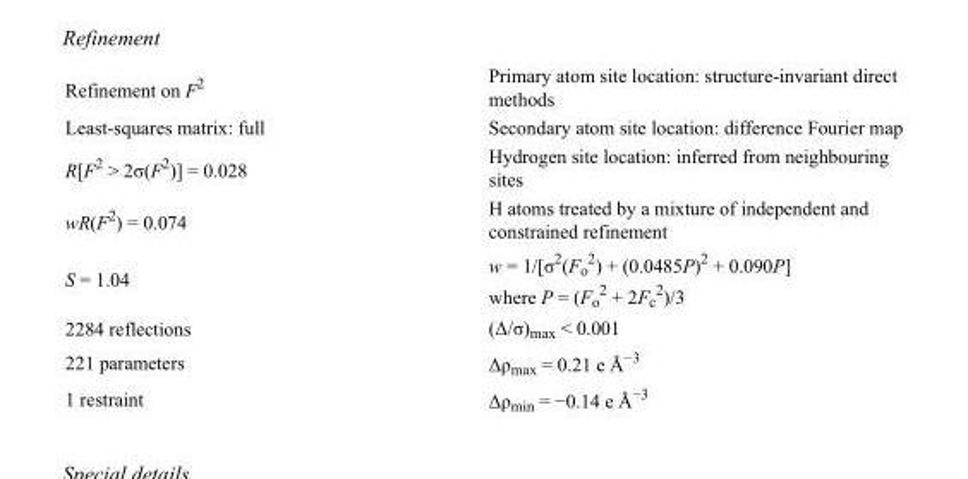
<table><tbody><tr><td>Refinement on F<sup>2</sup></td><td>Primary atom site location: structure-invariant direct methods</td></tr><tr><td>Least-squares matrix: full</td><td>Secondary atom site location: difference Fourier map</td></tr><tr><td>R[F<sup>2</sup> &gt; 2σ(F<sup>2</sup>)] = 0.028</td><td>Hydrogen site location: inferred from neighbouring sites</td></tr><tr><td>wR(F<sup>2</sup>) = 0.074</td><td>H atoms treated by a mixture of independent and constrained refinement</td></tr><tr><td>S = 1.04</td><td>w = 1/[σ<sup>2</sup>(F<sub>o</sub> <sup>2</sup>) + (0.0485P)<sup>2</sup> + 0.090P] where P = (F<sub>o</sub> <sup>2</sup> + 2F<sub>c</sub> <sup>2</sup>)/3</td></tr><tr><td>2284 reflections</td><td>(Δ/σ)<sub>max</sub> &lt; 0.001</td></tr><tr><td>221 parameters</td><td>Δρ<sub>max</sub> = 0.21 e Å<sup>−3</sup></td></tr><tr><td>1 restraint</td><td>Δρ<sub>min</sub> = −0.14 e Å<sup>−3</sup></td></tr></tbody></table>